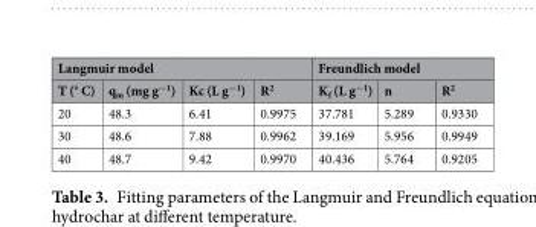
<table><thead><tr><td colspan="4">Langmuir model</td><td colspan="3">Freundlich model</td></tr><tr><td>T (° C)</td><td>q<sub>m</sub> (mg g<sup>−1</sup>)</td><td>Kc (L g<sup>−1</sup>)</td><td>R<sup>2</sup></td><td>K<sub>f</sub> (L g<sup>−1</sup>)</td><td>n</td><td>R<sup>2</sup></td></tr></thead><tbody><tr><td>20</td><td>48.3</td><td>6.41</td><td>0.9975</td><td>37.781</td><td>5.289</td><td>0.9330</td></tr><tr><td>30</td><td>48.6</td><td>7.88</td><td>0.9962</td><td>39.169</td><td>5.956</td><td>0.9949</td></tr><tr><td>40</td><td>48.7</td><td>9.42</td><td>0.9970</td><td>40.436</td><td>5.764</td><td>0.9205</td></tr></tbody></table>